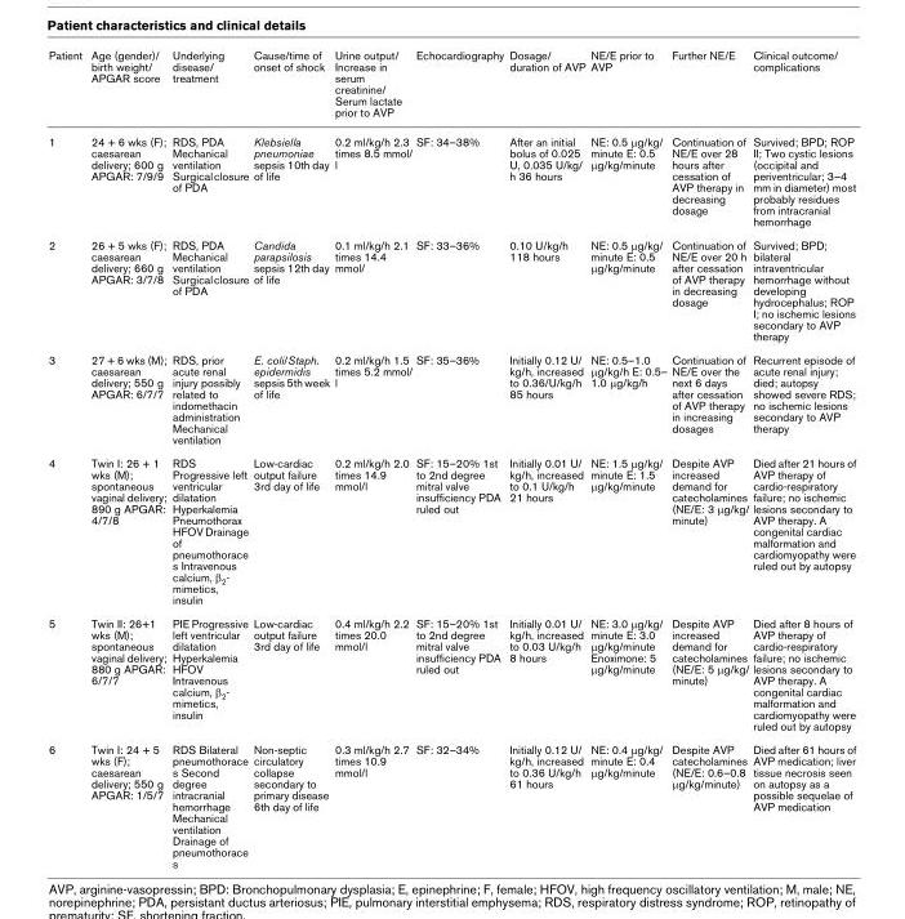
<table><thead><tr><td>Patient</td><td>Age (gender)/ birth weight/ APGAR score</td><td>Underlying disease/ treatment</td><td>Cause/time of onset of shock</td><td>Urine output/ Increase in serum creatinine/ Serum lactate prior to AVP</td><td>Echocardiography</td><td>Dosage/ duration of AVP</td><td>NE/E prior to AVP</td><td>Further NE/E</td><td>Clinical outcome/ complications</td></tr></thead><tbody><tr><td>1</td><td>24 + 6 wks (F); caesarean delivery; 600 g APGAR: 7/9/9</td><td>RDS, PDA Mechanical ventilation Surgical closure of PDA</td><td>Klebsiella pneumoniae sepsis 10th day of life</td><td>0.2 ml/kg/h 2.3 times 8.5 mmol/ l</td><td>SF: 34–38%</td><td>After an initial bolus of 0.025 U, 0.035 U/kg/ h 36 hours</td><td>NE: 0.5 µg/kg/ minute E: 0.5 µg/kg/minute</td><td>Continuation of NE/E over 28 hours after cessation of AVP therapy in decreasing dosage</td><td>Survived; BPD; ROP II; Two cystic lesions (occipital and periventricular; 3–4 mm in diameter) most probably residues from intracranial hemorrhage</td></tr><tr><td>2</td><td>26 + 5 wks (F); caesarean delivery; 660 g APGAR: 3/7/8</td><td>RDS, PDA Mechanical ventilation Surgical closure of PDA</td><td>Candida parapsilosis sepsis 12th day of life</td><td>0.1 ml/kg/h 2.1 times 14.4 mmol/</td><td>SF: 33–36%</td><td>0.10 U/kg/h 118 hours</td><td>NE: 0.5 µg/kg/ minute E: 0.5 µg/kg/minute</td><td>Continuation of NE/E over 20 h after cessation of AVP therapy in decreasing dosage</td><td>Survived; BPD; bilateral intraventricular hemorrhage without developing hydrocephalus; ROP I; no ischemic lesions secondary to AVP therapy</td></tr><tr><td>3</td><td>27 + 6 wks (M); caesarean delivery; 550 g APGAR: 6/7/7</td><td>RDS, prior acute renal injury possibly related to indomethacin administration Mechanical ventilation</td><td>E. coli/Staph. epidermidis sepsis 5th week of life</td><td>0.2 ml/kg/h 1.5 times 5.2 mmol/ l</td><td>SF: 35–36%</td><td>Initially 0.12 U/ kg/h, increased to 0.36/U/kg/h 85 hours</td><td>NE: 0.5–1.0 µg/kg/h E: 0.5– 1.0 µg/kg/h</td><td>Continuation of NE/E over the next 6 days after cessation of AVP therapy in increasing dosages</td><td>Recurrent episode of acute renal injury; died; autopsy showed severe RDS; no ischemic lesions secondary to AVP therapy</td></tr><tr><td>4</td><td>Twin I: 26 + 1 wks (M); spontaneous vaginal delivery; 890 g APGAR: 4/7/8</td><td>RDS Progressive left ventricular dilatation Hyperkalemia Pneumothorax HFOV Drainage of pneumothorace s Intravenous calcium, β2- mimetics, insulin</td><td>Low-cardiac output failure 3rd day of life</td><td>0.2 ml/kg/h 2.0 times 14.9 mmol/l</td><td>SF: 15–20% 1st to 2nd degree mitral valve insufficiency PDA ruled out</td><td>Initially 0.01 U/ kg/h, increased to 0.1 U/kg/h 21 hours</td><td>NE: 1.5 µg/kg/ minute E: 1.5 µg/kg/minute</td><td>Despite AVP increased demand for catecholamines (NE/E: 3 µg/kg/ minute)</td><td>Died after 21 hours of AVP therapy of cardio-respiratory failure; no ischemic lesions secondary to AVP therapy. A congenital cardiac malformation and cardiomyopathy were ruled out by autopsy</td></tr><tr><td>5</td><td>Twin II: 26+1 wks (M); spontaneous vaginal delivery; 880 g APGAR: 6/7/7</td><td>PIE Progressive left ventricular dilatation Hyperkalemia HFOV Intravenous calcium, β2- mimetics, insulin</td><td>Low-cardiac output failure 3rd day of life</td><td>0.4 ml/kg/h 2.2 times 20.0 mmol/l</td><td>SF: 15–20% 1st to 2nd degree mitral valve insufficiency PDA ruled out</td><td>Initially 0.01 U/ kg/h, increased to 0.03 U/kg/h 8 hours</td><td>NE: 3.0 µg/kg/ minute E: 3.0 µg/kg/minute Enoximone: 5 µg/kg/minute</td><td>Despite AVP increased demand for catecholamines (NE/E: 5 µg/kg/ minute)</td><td>Died after 8 hours of AVP therapy of cardio-respiratory failure; no ischemic lesions secondary to AVP therapy. A congenital cardiac malformation and cardiomyopathy were ruled out by autopsy</td></tr><tr><td>6</td><td>Twin I: 24 + 5 wks (F); caesarean delivery; 550 g APGAR: 1/5/7</td><td>RDS Bilateral pneumothorace s Second degree intracranial hemorrhage Mechanical ventilation Drainage of pneumothorace s</td><td>Non-septic circulatory collapse secondary to primary disease 6th day of life</td><td>0.3 ml/kg/h 2.7 times 10.9 mmol/l</td><td>SF: 32–34%</td><td>Initially 0.12 U/ kg/h, increased to 0.36 U/kg/h 61 hours</td><td>NE: 0.4 µg/kg/ minute E: 0.4 µg/kg/minute</td><td>Despite AVP catecholamines (NE/E: 0.6–0.8 µg/kg/minute)</td><td>Died after 61 hours of AVP medication; liver tissue necrosis seen on autopsy as a possible sequelae of AVP medication</td></tr></tbody></table>